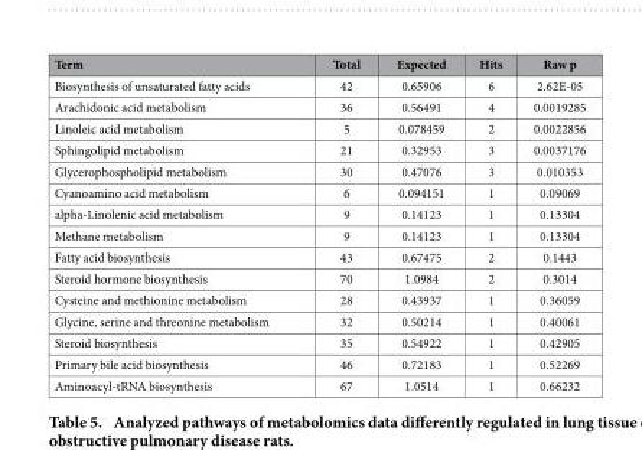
<table><thead><tr><td>Term</td><td>Total</td><td>Expected</td><td>Hits</td><td>Raw p</td></tr></thead><tbody><tr><td>Biosynthesis of unsaturated fatty acids</td><td>42</td><td>0.65906</td><td>6</td><td>2.62E-05</td></tr><tr><td>Arachidonic acid metabolism</td><td>36</td><td>0.56491</td><td>4</td><td>0.0019285</td></tr><tr><td>Linoleic acid metabolism</td><td>5</td><td>0.078459</td><td>2</td><td>0.0022856</td></tr><tr><td>Sphingolipid metabolism</td><td>21</td><td>0.32953</td><td>3</td><td>0.0037176</td></tr><tr><td>Glycerophospholipid metabolism</td><td>30</td><td>0.47076</td><td>3</td><td>0.010353</td></tr><tr><td>Cyanoamino acid metabolism</td><td>6</td><td>0.094151</td><td>1</td><td>0.09069</td></tr><tr><td>alpha-Linolenic acid metabolism</td><td>9</td><td>0.14123</td><td>1</td><td>0.13304</td></tr><tr><td>Methane metabolism</td><td>9</td><td>0.14123</td><td>1</td><td>0.13304</td></tr><tr><td>Fatty acid biosynthesis</td><td>43</td><td>0.67475</td><td>2</td><td>0.1443</td></tr><tr><td>Steroid hormone biosynthesis</td><td>70</td><td>1.0984</td><td>2</td><td>0.3014</td></tr><tr><td>Cysteine and methionine metabolism</td><td>28</td><td>0.43937</td><td>1</td><td>0.36059</td></tr><tr><td>Glycine, serine and threonine metabolism</td><td>32</td><td>0.50214</td><td>1</td><td>0.40061</td></tr><tr><td>Steroid biosynthesis</td><td>35</td><td>0.54922</td><td>1</td><td>0.42905</td></tr><tr><td>Primary bile acid biosynthesis</td><td>46</td><td>0.72183</td><td>1</td><td>0.52269</td></tr><tr><td>Aminoacyl-tRNA biosynthesis</td><td>67</td><td>1.0514</td><td>1</td><td>0.66232</td></tr></tbody></table>